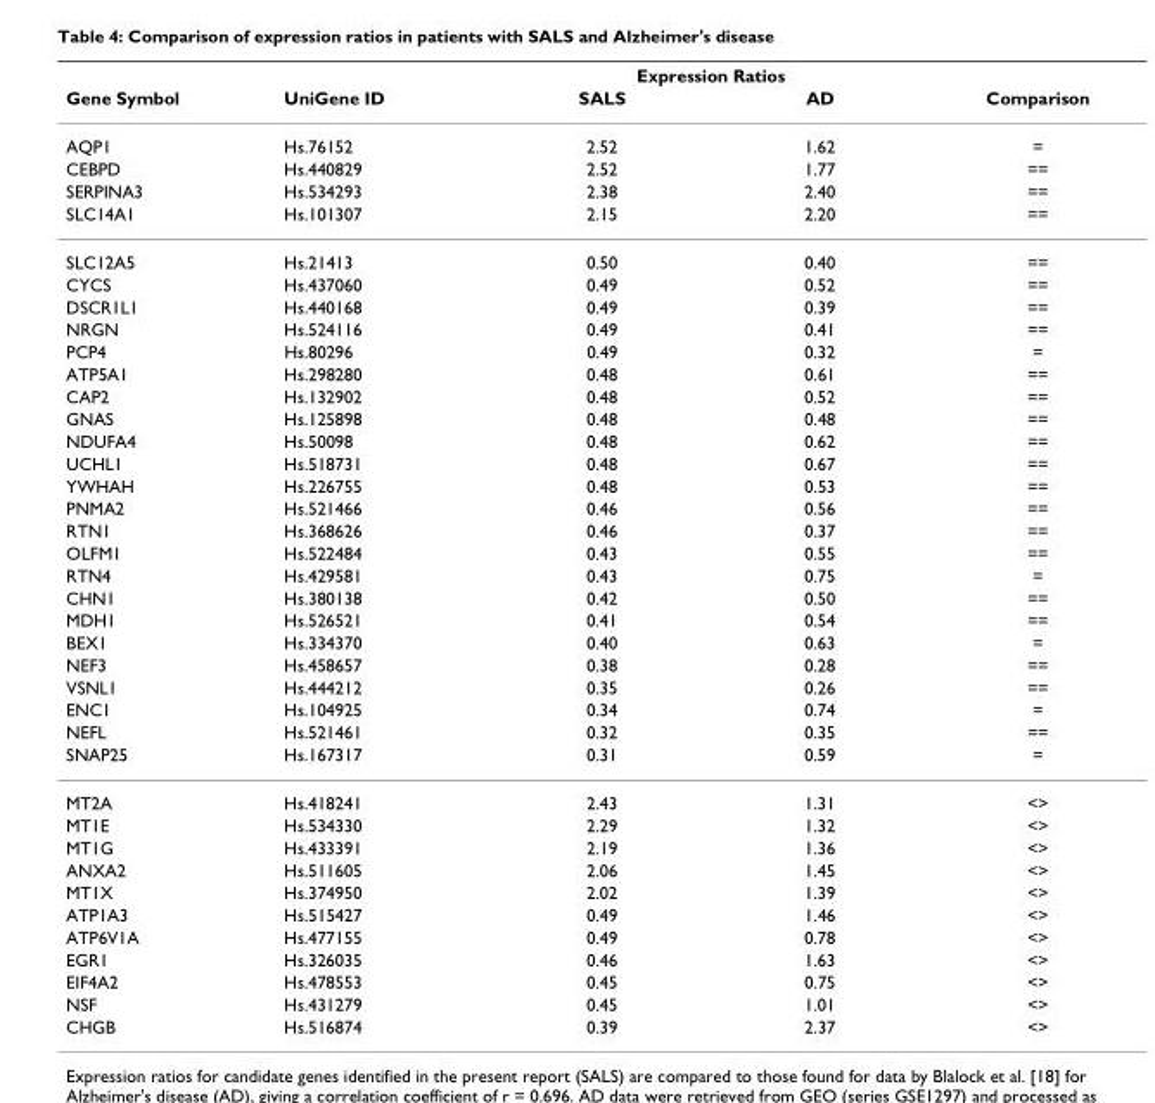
<table><thead><tr><td rowspan="2">Gene Symbol</td><td rowspan="2">UniGene ID</td><td colspan="2">Expression Ratios</td><td rowspan="2">Comparison</td></tr><tr><td>SALS</td><td>AD</td></tr></thead><tbody><tr><td>AQP1</td><td>Hs.76152</td><td>2.52</td><td>1.62</td><td>=</td></tr><tr><td>CEBPD</td><td>Hs.440829</td><td>2.52</td><td>1.77</td><td>==</td></tr><tr><td>SERPINA3</td><td>Hs.534293</td><td>2.38</td><td>2.40</td><td>==</td></tr><tr><td>SLC14A1</td><td>Hs.101307</td><td>2.15</td><td>2.20</td><td>==</td></tr><tr><td>SLC12A5</td><td>Hs.21413</td><td>0.50</td><td>0.40</td><td>==</td></tr><tr><td>CYCS</td><td>Hs.437060</td><td>0.49</td><td>0.52</td><td>==</td></tr><tr><td>DSCR1L1</td><td>Hs.440168</td><td>0.49</td><td>0.39</td><td>==</td></tr><tr><td>NRGN</td><td>Hs.524116</td><td>0.49</td><td>0.41</td><td>==</td></tr><tr><td>PCP4</td><td>Hs.80296</td><td>0.49</td><td>0.32</td><td>=</td></tr><tr><td>ATP5A1</td><td>Hs.298280</td><td>0.48</td><td>0.61</td><td>==</td></tr><tr><td>CAP2</td><td>Hs.132902</td><td>0.48</td><td>0.52</td><td>==</td></tr><tr><td>GNAS</td><td>Hs.125898</td><td>0.48</td><td>0.48</td><td>==</td></tr><tr><td>NDUFA4</td><td>Hs.50098</td><td>0.48</td><td>0.62</td><td>==</td></tr><tr><td>UCHL1</td><td>Hs.518731</td><td>0.48</td><td>0.67</td><td>==</td></tr><tr><td>YWHAH</td><td>Hs.226755</td><td>0.48</td><td>0.53</td><td>==</td></tr><tr><td>PNMA2</td><td>Hs.521466</td><td>0.46</td><td>0.56</td><td>==</td></tr><tr><td>RTN1</td><td>Hs.368626</td><td>0.46</td><td>0.37</td><td>==</td></tr><tr><td>OLFM1</td><td>Hs.522484</td><td>0.43</td><td>0.55</td><td>==</td></tr><tr><td>RTN4</td><td>Hs.429581</td><td>0.43</td><td>0.75</td><td>=</td></tr><tr><td>CHN1</td><td>Hs.380138</td><td>0.42</td><td>0.50</td><td>==</td></tr><tr><td>MDH1</td><td>Hs.526521</td><td>0.41</td><td>0.54</td><td>==</td></tr><tr><td>BEX1</td><td>Hs.334370</td><td>0.40</td><td>0.63</td><td>=</td></tr><tr><td>NEF3</td><td>Hs.458657</td><td>0.38</td><td>0.28</td><td>==</td></tr><tr><td>VSNL1</td><td>Hs.444212</td><td>0.35</td><td>0.26</td><td>==</td></tr><tr><td>ENC1</td><td>Hs.104925</td><td>0.34</td><td>0.74</td><td>=</td></tr><tr><td>NEFL</td><td>Hs.521461</td><td>0.32</td><td>0.35</td><td>==</td></tr><tr><td>SNAP25</td><td>Hs.167317</td><td>0.31</td><td>0.59</td><td>=</td></tr><tr><td>MT2A</td><td>Hs.418241</td><td>2.43</td><td>1.31</td><td>&lt;&gt;</td></tr><tr><td>MT1E</td><td>Hs.534330</td><td>2.29</td><td>1.32</td><td>&lt;&gt;</td></tr><tr><td>MT1G</td><td>Hs.433391</td><td>2.19</td><td>1.36</td><td>&lt;&gt;</td></tr><tr><td>ANXA2</td><td>Hs.511605</td><td>2.06</td><td>1.45</td><td>&lt;&gt;</td></tr><tr><td>MT1X</td><td>Hs.374950</td><td>2.02</td><td>1.39</td><td>&lt;&gt;</td></tr><tr><td>ATP1A3</td><td>Hs.515427</td><td>0.49</td><td>1.46</td><td>&lt;&gt;</td></tr><tr><td>ATP6V1A</td><td>Hs.477155</td><td>0.49</td><td>0.78</td><td>&lt;&gt;</td></tr><tr><td>EGR1</td><td>Hs.326035</td><td>0.46</td><td>1.63</td><td>&lt;&gt;</td></tr><tr><td>EIF4A2</td><td>Hs.478553</td><td>0.45</td><td>0.75</td><td>&lt;&gt;</td></tr><tr><td>NSF</td><td>Hs.431279</td><td>0.45</td><td>1.01</td><td>&lt;&gt;</td></tr><tr><td>CHGB</td><td>Hs.516874</td><td>0.39</td><td>2.37</td><td>&lt;&gt;</td></tr></tbody></table>